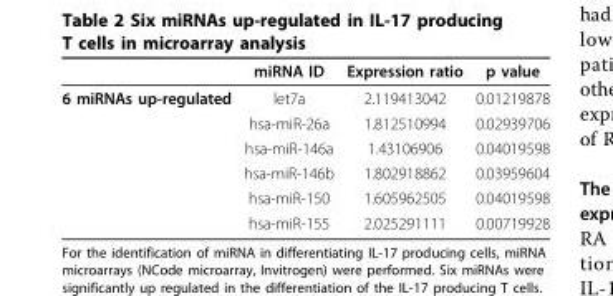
<table><thead><tr><td></td><td>miRNA ID</td><td>Expression ratio</td><td>p value</td></tr></thead><tbody><tr><td rowspan="6">6 miRNAs up-regulated</td><td>let7a</td><td>2.119413042</td><td>0.01219878</td></tr><tr><td>hsa-miR-26a</td><td>1.812510994</td><td>0.02939706</td></tr><tr><td>hsa-miR-146a</td><td>1.43106906</td><td>0.04019598</td></tr><tr><td>hsa-miR-146b</td><td>1.802918862</td><td>0.03959604</td></tr><tr><td>hsa-miR-150</td><td>1.605962505</td><td>0.04019598</td></tr><tr><td>hsa-miR-155</td><td>2.025291111</td><td>0.00719928</td></tr></tbody></table>